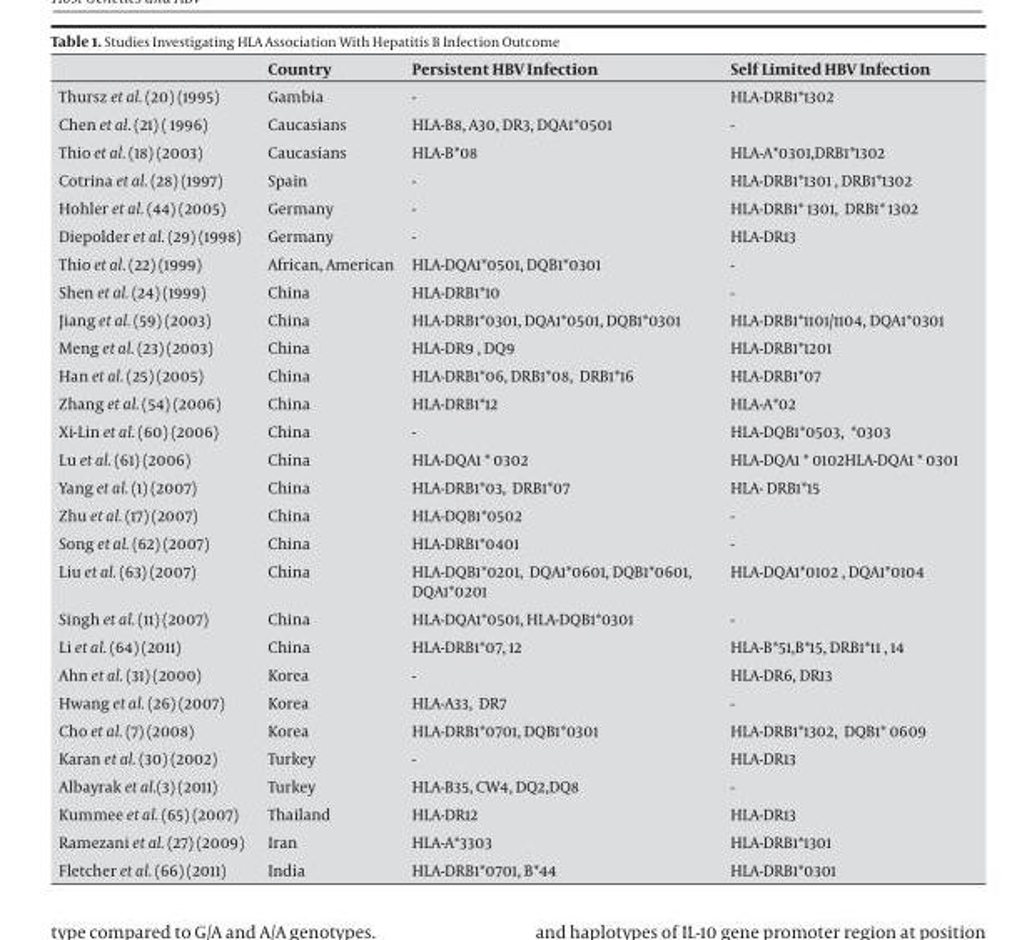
<table><thead><tr><td></td><td>Country</td><td>Persistent HBV Infection</td><td>Self Limited HBV Infection</td></tr></thead><tbody><tr><td>Thursz et al. (20) (1995)</td><td>Gambia</td><td>-</td><td>HLA-DRB1*1302</td></tr><tr><td>Chen et al. (21) ( 1996)</td><td>Caucasians</td><td>HLA-B8, A30, DR3, DQA1*0501</td><td>-</td></tr><tr><td>Thio et al. (18) (2003)</td><td>Caucasians</td><td>HLA-B*08</td><td>HLA-A*0301,DRB1*1302</td></tr><tr><td>Cotrina et al. (28) (1997)</td><td>Spain</td><td>-</td><td>HLA-DRB1*1301 , DRB1*1302</td></tr><tr><td>Hohler et al. (44) (2005)</td><td>Germany</td><td>-</td><td>HLA-DRB1* 1301, DRB1* 1302</td></tr><tr><td>Diepolder et al. (29) (1998)</td><td>Germany</td><td>-</td><td>HLA-DR13</td></tr><tr><td>Thio et al. (22) (1999)</td><td>African, American</td><td>HLA-DQA1*0501, DQB1*0301</td><td>-</td></tr><tr><td>Shen et al. (24) (1999)</td><td>China</td><td>HLA-DRB1*10</td><td>-</td></tr><tr><td>Jiang et al. (59) (2003)</td><td>China</td><td>HLA-DRB1*0301, DQA1*0501, DQB1*0301</td><td>HLA-DRB1*1101/1104, DQA1*0301</td></tr><tr><td>Meng et al. (23) (2003)</td><td>China</td><td>HLA-DR9 , DQ9</td><td>HLA-DRB1*1201</td></tr><tr><td>Han et al. (25) (2005)</td><td>China</td><td>HLA-DRB1*06, DRB1*08, DRB1*16</td><td>HLA-DRB1*07</td></tr><tr><td>Zhang et al. (54) (2006)</td><td>China</td><td>HLA-DRB1*12</td><td>HLA-A*02</td></tr><tr><td>Xi-Lin et al. (60) (2006)</td><td>China</td><td>-</td><td>HLA-DQB1*0503, *0303</td></tr><tr><td>Lu et al. (61) (2006)</td><td>China</td><td>HLA-DQA1 * 0302</td><td>HLA-DQA1 * 0102HLA-DQA1 * 0301</td></tr><tr><td>Yang et al. (1) (2007)</td><td>China</td><td>HLA-DRB1*03, DRB1*07</td><td>HLA- DRB1*15</td></tr><tr><td>Zhu et al. (17) (2007)</td><td>China</td><td>HLA-DQB1*0502</td><td>-</td></tr><tr><td>Song et al. (62) (2007)</td><td>China</td><td>HLA-DRB1*0401</td><td>-</td></tr><tr><td>Liu et al. (63) (2007)</td><td>China</td><td>HLA-DQB1*0201, DQA1*0601, DQB1*0601, DQA1*0201</td><td>HLA-DQA1*0102 , DQA1*0104</td></tr><tr><td>Singh et al. (11) (2007)</td><td>China</td><td>HLA-DQA1*0501, HLA-DQB1*0301</td><td>-</td></tr><tr><td>Li et al. (64) (2011)</td><td>China</td><td>HLA-DRB1*07, 12</td><td>HLA-B*51,B*15, DRB1*11 , 14</td></tr><tr><td>Ahn et al. (31) (2000)</td><td>Korea</td><td>-</td><td>HLA-DR6, DR13</td></tr><tr><td>Hwang et al. (26) (2007)</td><td>Korea</td><td>HLA-A33, DR7</td><td>-</td></tr><tr><td>Cho et al. (7) (2008)</td><td>Korea</td><td>HLA-DRB1*0701, DQB1*0301</td><td>HLA-DRB1*1302, DQB1* 0609</td></tr><tr><td>Karan et al. (30) (2002)</td><td>Turkey</td><td>-</td><td>HLA-DR13</td></tr><tr><td>Albayrak et al.(3) (2011)</td><td>Turkey</td><td>HLA-B35, CW4, DQ2,DQ8</td><td>-</td></tr><tr><td>Kummee et al. (65) (2007)</td><td>Thailand</td><td>HLA-DR12</td><td>HLA-DR13</td></tr><tr><td>Ramezani et al. (27) (2009)</td><td>Iran</td><td>HLA-A*3303</td><td>HLA-DRB1*1301</td></tr><tr><td>Fletcher et al. (66) (2011)</td><td>India</td><td>HLA-DRB1*0701, B*44</td><td>HLA-DRB1*0301</td></tr></tbody></table>